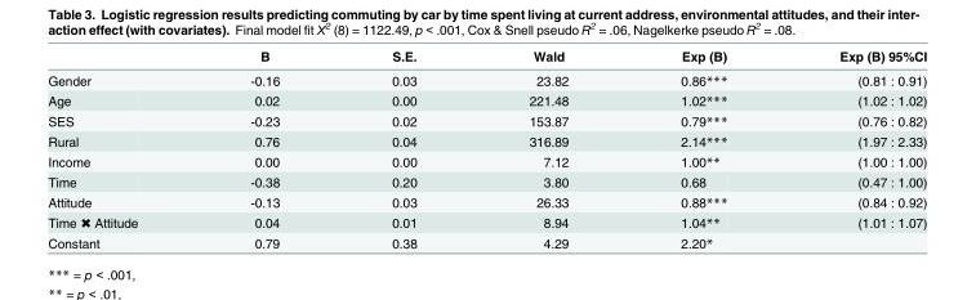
<table><thead><tr><td></td><td>B</td><td>S.E.</td><td>Wald</td><td>Exp (B)</td><td>Exp (B) 95%CI</td></tr></thead><tbody><tr><td>Gender</td><td>-0.16</td><td>0.03</td><td>23.82</td><td>0.86***</td><td>(0.81 : 0.91)</td></tr><tr><td>Age</td><td>0.02</td><td>0.00</td><td>221.48</td><td>1.02***</td><td>(1.02 : 1.02)</td></tr><tr><td>SES</td><td>-0.23</td><td>0.02</td><td>153.87</td><td>0.79***</td><td>(0.76 : 0.82)</td></tr><tr><td>Rural</td><td>0.76</td><td>0.04</td><td>316.89</td><td>2.14***</td><td>(1.97 : 2.33)</td></tr><tr><td>Income</td><td>0.00</td><td>0.00</td><td>7.12</td><td>1.00**</td><td>(1.00 : 1.00)</td></tr><tr><td>Time</td><td>-0.38</td><td>0.20</td><td>3.80</td><td>0.68</td><td>(0.47 : 1.00)</td></tr><tr><td>Attitude</td><td>-0.13</td><td>0.03</td><td>26.33</td><td>0.88***</td><td>(0.84 : 0.92)</td></tr><tr><td>Time ✖ Attitude</td><td>0.04</td><td>0.01</td><td>8.94</td><td>1.04**</td><td>(1.01 : 1.07)</td></tr><tr><td>Constant</td><td>0.79</td><td>0.38</td><td>4.29</td><td>2.20*</td><td></td></tr></tbody></table>